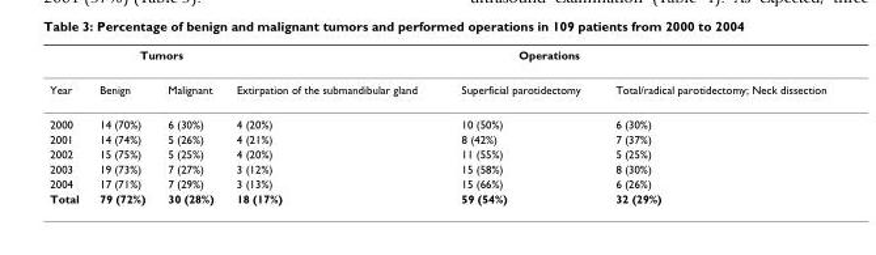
<table><thead><tr><td rowspan="2">Year</td><td colspan="2">Tumors</td><td colspan="3">Operations</td></tr><tr><td>Benign</td><td>Malignant</td><td>Extirpation of the submandibular gland</td><td>Superficial parotidectomy</td><td>Total/radical parotidectomy; Neck dissection</td></tr></thead><tbody><tr><td>2000</td><td>14 (70%)</td><td>6 (30%)</td><td>4 (20%)</td><td>10 (50%)</td><td>6 (30%)</td></tr><tr><td>2001</td><td>14 (74%)</td><td>5 (26%)</td><td>4 (21%)</td><td>8 (42%)</td><td>7 (37%)</td></tr><tr><td>2002</td><td>15 (75%)</td><td>5 (25%)</td><td>4 (20%)</td><td>11 (55%)</td><td>5 (25%)</td></tr><tr><td>2003</td><td>19 (73%)</td><td>7 (27%)</td><td>3 (12%)</td><td>15 (58%)</td><td>8 (30%)</td></tr><tr><td>2004</td><td>17 (71%)</td><td>7 (29%)</td><td>3 (13%)</td><td>15 (66%)</td><td>6 (26%)</td></tr><tr><td>Total</td><td>79 (72%)</td><td>30 (28%)</td><td>18 (17%)</td><td>59 (54%)</td><td>32 (29%)</td></tr></tbody></table>